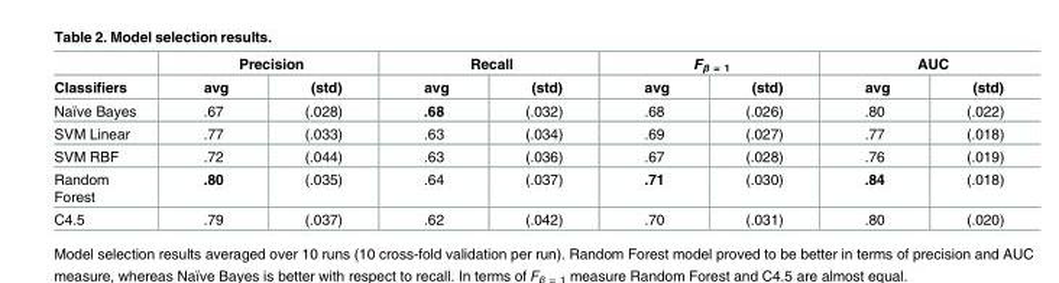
<table><thead><tr><td rowspan="2">Classifiers</td><td colspan="2">Precision</td><td colspan="2">Recall</td><td colspan="2">F<sub>β = 1</sub></td><td colspan="2">AUC</td></tr><tr><td>avg</td><td>(std)</td><td>avg</td><td>(std)</td><td>avg</td><td>(std)</td><td>avg</td><td>(std)</td></tr></thead><tbody><tr><td>Naïve Bayes</td><td>.67</td><td>(.028)</td><td>.68</td><td>(.032)</td><td>.68</td><td>(.026)</td><td>.80</td><td>(.022)</td></tr><tr><td>SVM Linear</td><td>.77</td><td>(.033)</td><td>.63</td><td>(.034)</td><td>.69</td><td>(.027)</td><td>.77</td><td>(.018)</td></tr><tr><td>SVM RBF</td><td>.72</td><td>(.044)</td><td>.63</td><td>(.036)</td><td>.67</td><td>(.028)</td><td>.76</td><td>(.019)</td></tr><tr><td>Random Forest</td><td>.80</td><td>(.035)</td><td>.64</td><td>(.037)</td><td>.71</td><td>(.030)</td><td>.84</td><td>(.018)</td></tr><tr><td>C4.5</td><td>.79</td><td>(.037)</td><td>.62</td><td>(.042)</td><td>.70</td><td>(.031)</td><td>.80</td><td>(.020)</td></tr></tbody></table>